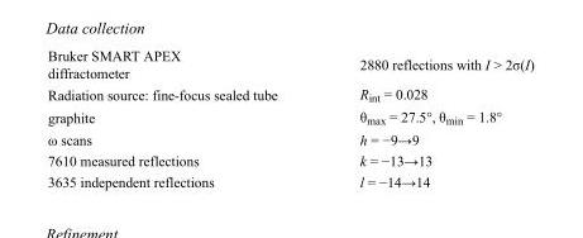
<table><tbody><tr><td>Bruker SMART APEX diffractometer</td><td>2880 reflections with I &gt; 2σ(I)</td></tr><tr><td>Radiation source: fine-focus sealed tube</td><td>R<sub>int</sub> = 0.028</td></tr><tr><td>graphite</td><td>θ<sub>max</sub> = 27.5°, θ<sub>min</sub> = 1.8°</td></tr><tr><td>ω scans</td><td>h = −9→9</td></tr><tr><td>7610 measured reflections</td><td>k = −13→13</td></tr><tr><td>3635 independent reflections</td><td>l = −14→14</td></tr></tbody></table>